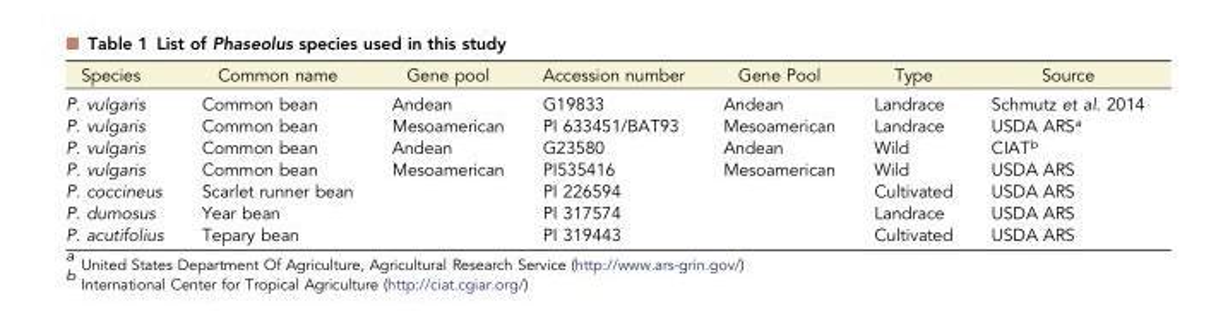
<table><thead><tr><td>Species</td><td>Common name</td><td>Gene pool</td><td>Accession number</td><td>Gene Pool</td><td>Type</td><td>Source</td></tr></thead><tbody><tr><td>P. vulgaris</td><td>Common bean</td><td>Andean</td><td>G19833</td><td>Andean</td><td>Landrace</td><td>Schmutz et al. 2014</td></tr><tr><td>P. vulgaris</td><td>Common bean</td><td>Mesoamerican</td><td>PI 633451/BAT93</td><td>Mesoamerican</td><td>Landrace</td><td>USDA ARS<sup>a</sup></td></tr><tr><td>P. vulgaris</td><td>Common bean</td><td>Andean</td><td>G23580</td><td>Andean</td><td>Wild</td><td>CIAT<sup>b</sup></td></tr><tr><td>P. vulgaris</td><td>Common bean</td><td>Mesoamerican</td><td>PI535416</td><td>Mesoamerican</td><td>Wild</td><td>USDA ARS</td></tr><tr><td>P. coccineus</td><td>Scarlet runner bean</td><td></td><td>PI 226594</td><td></td><td>Cultivated</td><td>USDA ARS</td></tr><tr><td>P. dumosus</td><td>Year bean</td><td></td><td>PI 317574</td><td></td><td>Landrace</td><td>USDA ARS</td></tr><tr><td>P. acutifolius</td><td>Tepary bean</td><td></td><td>PI 319443</td><td></td><td>Cultivated</td><td>USDA ARS</td></tr></tbody></table>